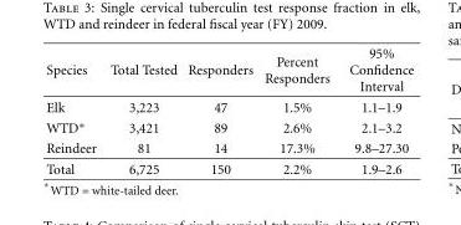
<table><thead><tr><td>Species</td><td>Total Tested</td><td>Responders</td><td>Percent Responders</td><td>95% Confidence Interval</td></tr></thead><tbody><tr><td>Elk</td><td>3,223</td><td>47</td><td>1.5%</td><td>1.1–1.9</td></tr><tr><td>WTD∗</td><td>3,421</td><td>89</td><td>2.6%</td><td>2.1–3.2</td></tr><tr><td>Reindeer</td><td>81</td><td>14</td><td>17.3%</td><td>9.8–27.30</td></tr><tr><td>Total</td><td>6,725</td><td>150</td><td>2.2%</td><td>1.9–2.6</td></tr></tbody></table>